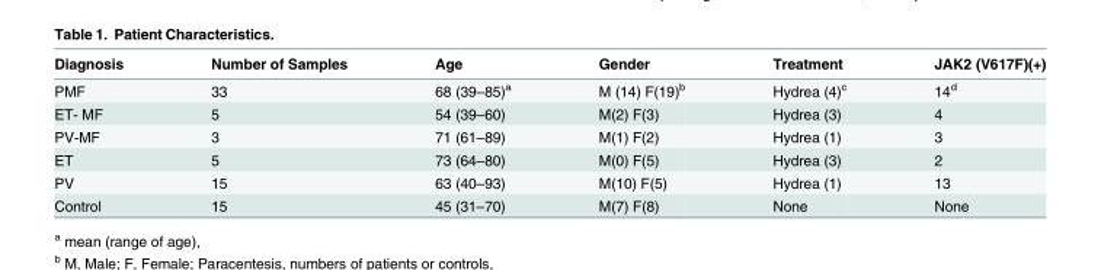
<table><thead><tr><td>Diagnosis</td><td>Number of Samples</td><td>Age</td><td>Gender</td><td>Treatment</td><td>JAK2 (V617F)(+)</td></tr></thead><tbody><tr><td>PMF</td><td>33</td><td>68 (39–85)<sup>a</sup></td><td>M (14) F(19)<sup>b</sup></td><td>Hydrea (4)<sup>c</sup></td><td>14<sup>d</sup></td></tr><tr><td>ET- MF</td><td>5</td><td>54 (39–60)</td><td>M(2) F(3)</td><td>Hydrea (3)</td><td>4</td></tr><tr><td>PV-MF</td><td>3</td><td>71 (61–89)</td><td>M(1) F(2)</td><td>Hydrea (1)</td><td>3</td></tr><tr><td>ET</td><td>5</td><td>73 (64–80)</td><td>M(0) F(5)</td><td>Hydrea (3)</td><td>2</td></tr><tr><td>PV</td><td>15</td><td>63 (40–93)</td><td>M(10) F(5)</td><td>Hydrea (1)</td><td>13</td></tr><tr><td>Control</td><td>15</td><td>45 (31–70)</td><td>M(7) F(8)</td><td>None</td><td>None</td></tr></tbody></table>